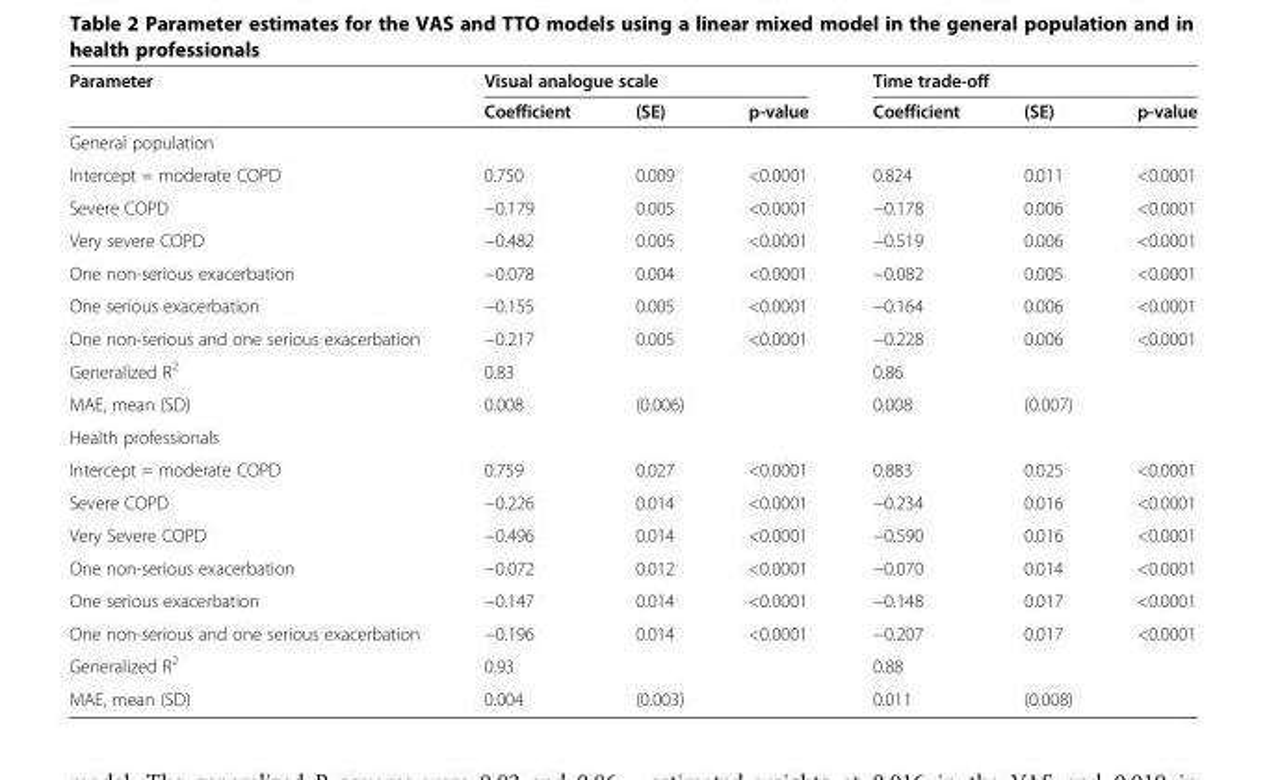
<table><thead><tr><td rowspan="2">Parameter</td><td colspan="3">Visual analogue scale</td><td colspan="3">Time trade-off</td></tr><tr><td>Coefficient</td><td>(SE)</td><td>p-value</td><td>Coefficient</td><td>(SE)</td><td>p-value</td></tr></thead><tbody><tr><td colspan="7">General population</td></tr><tr><td>Intercept = moderate COPD</td><td>0.750</td><td>0.009</td><td>&lt;0.0001</td><td>0.824</td><td>0.011</td><td>&lt;0.0001</td></tr><tr><td>Severe COPD</td><td>−0.179</td><td>0.005</td><td>&lt;0.0001</td><td>−0.178</td><td>0.006</td><td>&lt;0.0001</td></tr><tr><td>Very severe COPD</td><td>−0.482</td><td>0.005</td><td>&lt;0.0001</td><td>−0.519</td><td>0.006</td><td>&lt;0.0001</td></tr><tr><td>One non-serious exacerbation</td><td>−0.078</td><td>0.004</td><td>&lt;0.0001</td><td>−0.082</td><td>0.005</td><td>&lt;0.0001</td></tr><tr><td>One serious exacerbation</td><td>−0.155</td><td>0.005</td><td>&lt;0.0001</td><td>−0.164</td><td>0.006</td><td>&lt;0.0001</td></tr><tr><td>One non-serious and one serious exacerbation</td><td>−0.217</td><td>0.005</td><td>&lt;0.0001</td><td>−0.228</td><td>0.006</td><td>&lt;0.0001</td></tr><tr><td>Generalized R<sup>2</sup></td><td>0.83</td><td></td><td></td><td>0.86</td><td></td><td></td></tr><tr><td>MAE, mean (SD)</td><td>0.008</td><td>(0.006)</td><td></td><td>0.008</td><td>(0.007)</td><td></td></tr><tr><td colspan="7">Health professionals</td></tr><tr><td>Intercept = moderate COPD</td><td>0.759</td><td>0.027</td><td>&lt;0.0001</td><td>0.883</td><td>0.025</td><td>&lt;0.0001</td></tr><tr><td>Severe COPD</td><td>−0.226</td><td>0.014</td><td>&lt;0.0001</td><td>−0.234</td><td>0.016</td><td>&lt;0.0001</td></tr><tr><td>Very Severe COPD</td><td>−0.496</td><td>0.014</td><td>&lt;0.0001</td><td>−0.590</td><td>0.016</td><td>&lt;0.0001</td></tr><tr><td>One non-serious exacerbation</td><td>−0.072</td><td>0.012</td><td>&lt;0.0001</td><td>−0.070</td><td>0.014</td><td>&lt;0.0001</td></tr><tr><td>One serious exacerbation</td><td>−0.147</td><td>0.014</td><td>&lt;0.0001</td><td>−0.148</td><td>0.017</td><td>&lt;0.0001</td></tr><tr><td>One non-serious and one serious exacerbation</td><td>−0.196</td><td>0.014</td><td>&lt;0.0001</td><td>−0.207</td><td>0.017</td><td>&lt;0.0001</td></tr><tr><td>Generalized R<sup>2</sup></td><td>0.93</td><td></td><td></td><td>0.88</td><td></td><td></td></tr><tr><td>MAE, mean (SD)</td><td>0.004</td><td>(0.003)</td><td></td><td>0.011</td><td>(0.008)</td><td></td></tr></tbody></table>